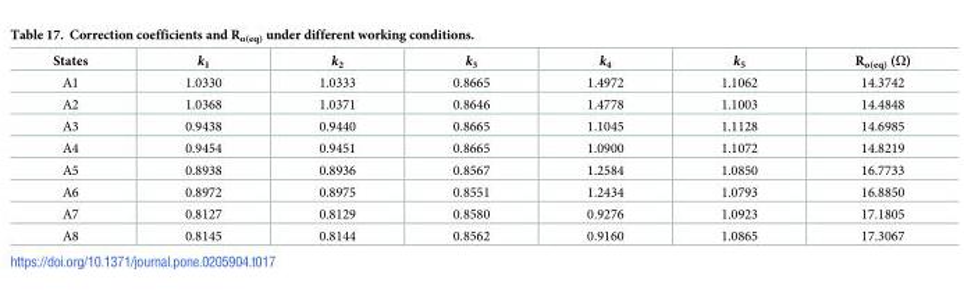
<table><thead><tr><td>States</td><td>k<sub>1</sub></td><td>k<sub>2</sub></td><td>k<sub>3</sub></td><td>k<sub>4</sub></td><td>k<sub>5</sub></td><td>R<sub>o(eq)</sub> (Ω)</td></tr></thead><tbody><tr><td>A1</td><td>1.0330</td><td>1.0333</td><td>0.8665</td><td>1.4972</td><td>1.1062</td><td>14.3742</td></tr><tr><td>A2</td><td>1.0368</td><td>1.0371</td><td>0.8646</td><td>1.4778</td><td>1.1003</td><td>14.4848</td></tr><tr><td>A3</td><td>0.9438</td><td>0.9440</td><td>0.8665</td><td>1.1045</td><td>1.1128</td><td>14.6985</td></tr><tr><td>A4</td><td>0.9454</td><td>0.9451</td><td>0.8665</td><td>1.0900</td><td>1.1072</td><td>14.8219</td></tr><tr><td>A5</td><td>0.8938</td><td>0.8936</td><td>0.8567</td><td>1.2584</td><td>1.0850</td><td>16.7733</td></tr><tr><td>A6</td><td>0.8972</td><td>0.8975</td><td>0.8551</td><td>1.2434</td><td>1.0793</td><td>16.8850</td></tr><tr><td>A7</td><td>0.8127</td><td>0.8129</td><td>0.8580</td><td>0.9276</td><td>1.0923</td><td>17.1805</td></tr><tr><td>A8</td><td>0.8145</td><td>0.8144</td><td>0.8562</td><td>0.9160</td><td>1.0865</td><td>17.3067</td></tr></tbody></table>